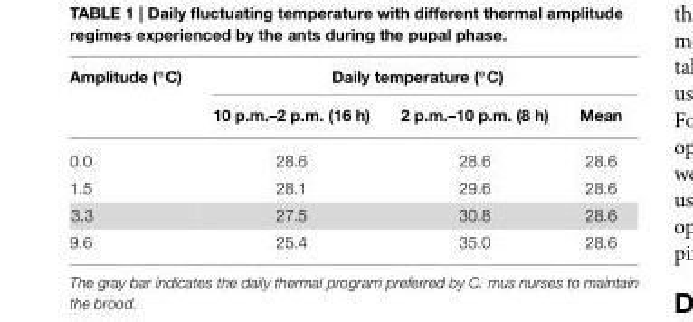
<table><thead><tr><td rowspan="2">Amplitude (◦C)</td><td colspan="3">Daily temperature (◦C)</td></tr><tr><td>10 p.m.–2 p.m. (16 h)</td><td>2 p.m.–10 p.m. (8 h)</td><td>Mean</td></tr></thead><tbody><tr><td>0.0</td><td>28.6</td><td>28.6</td><td>28.6</td></tr><tr><td>1.5</td><td>28.1</td><td>29.6</td><td>28.6</td></tr><tr><td>3.3</td><td>27.5</td><td>30.8</td><td>28.6</td></tr><tr><td>9.6</td><td>25.4</td><td>35.0</td><td>28.6</td></tr></tbody></table>